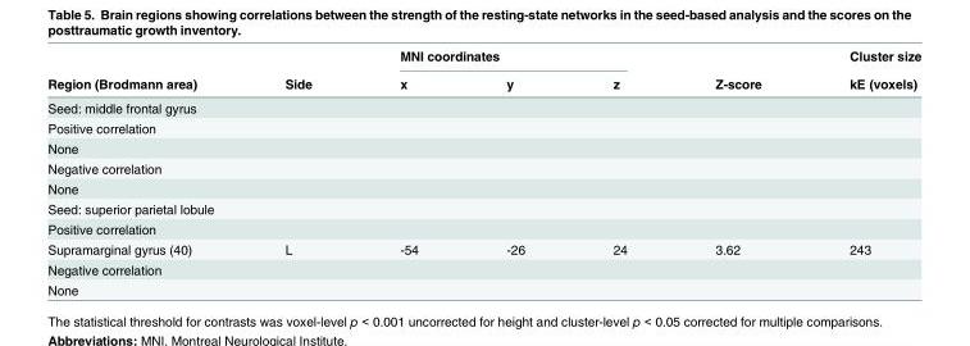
<table><thead><tr><td rowspan="2">Region (Brodmann area)</td><td rowspan="2">Side</td><td colspan="3">MNI coordinates</td><td rowspan="2">Z-score</td><td rowspan="2">Cluster size kE (voxels)</td></tr><tr><td>x</td><td>y</td><td>z</td></tr></thead><tbody><tr><td colspan="7">Seed: middle frontal gyrus</td></tr><tr><td colspan="7">Positive correlation</td></tr><tr><td colspan="7">None</td></tr><tr><td colspan="7">Negative correlation</td></tr><tr><td colspan="7">None</td></tr><tr><td colspan="7">Seed: superior parietal lobule</td></tr><tr><td colspan="7">Positive correlation</td></tr><tr><td>Supramarginal gyrus (40)</td><td>L</td><td>-54</td><td>-26</td><td>24</td><td>3.62</td><td>243</td></tr><tr><td colspan="7">Negative correlation</td></tr><tr><td colspan="7">None</td></tr></tbody></table>